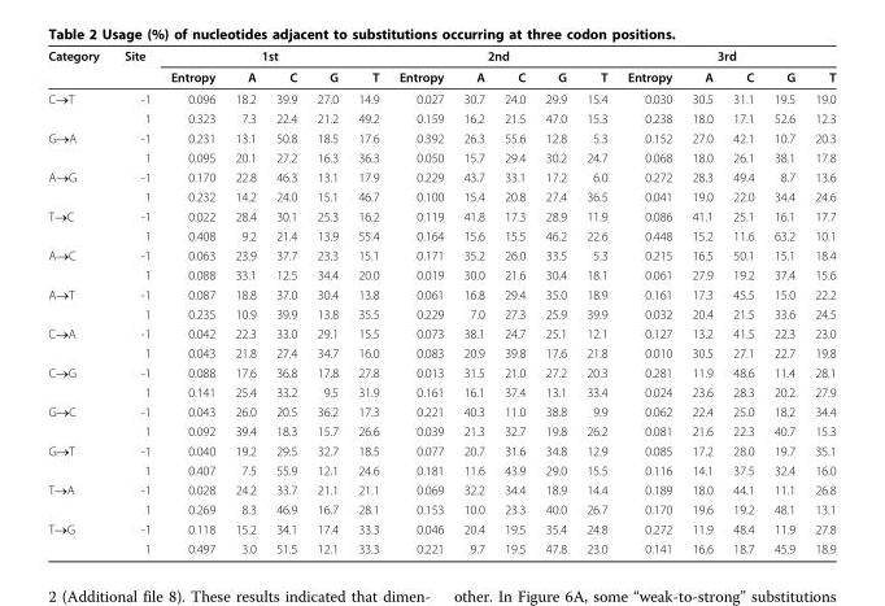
<table><thead><tr><td rowspan="2">Category</td><td rowspan="2">Site</td><td colspan="5">1st</td><td colspan="5">2nd</td><td colspan="5">3rd</td></tr><tr><td>Entropy</td><td>A</td><td>C</td><td>G</td><td>T</td><td>Entropy</td><td>A</td><td>C</td><td>G</td><td>T</td><td>Entropy</td><td>A</td><td>C</td><td>G</td><td>T</td></tr></thead><tbody><tr><td rowspan="2">C→T</td><td>-1</td><td>0.096</td><td>18.2</td><td>39.9</td><td>27.0</td><td>14.9</td><td>0.027</td><td>30.7</td><td>24.0</td><td>29.9</td><td>15.4</td><td>0.030</td><td>30.5</td><td>31.1</td><td>19.5</td><td>19.0</td></tr><tr><td>1</td><td>0.323</td><td>7.3</td><td>22.4</td><td>21.2</td><td>49.2</td><td>0.159</td><td>16.2</td><td>21.5</td><td>47.0</td><td>15.3</td><td>0.238</td><td>18.0</td><td>17.1</td><td>52.6</td><td>12.3</td></tr><tr><td rowspan="2">G→A</td><td>-1</td><td>0.231</td><td>13.1</td><td>50.8</td><td>18.5</td><td>17.6</td><td>0.392</td><td>26.3</td><td>55.6</td><td>12.8</td><td>5.3</td><td>0.152</td><td>27.0</td><td>42.1</td><td>10.7</td><td>20.3</td></tr><tr><td>1</td><td>0.095</td><td>20.1</td><td>27.2</td><td>16.3</td><td>36.3</td><td>0.050</td><td>15.7</td><td>29.4</td><td>30.2</td><td>24.7</td><td>0.068</td><td>18.0</td><td>26.1</td><td>38.1</td><td>17.8</td></tr><tr><td rowspan="2">A→G</td><td>-1</td><td>0.170</td><td>22.8</td><td>46.3</td><td>13.1</td><td>17.9</td><td>0.229</td><td>43.7</td><td>33.1</td><td>17.2</td><td>6.0</td><td>0.272</td><td>28.3</td><td>49.4</td><td>8.7</td><td>13.6</td></tr><tr><td>1</td><td>0.232</td><td>14.2</td><td>24.0</td><td>15.1</td><td>46.7</td><td>0.100</td><td>15.4</td><td>20.8</td><td>27.4</td><td>36.5</td><td>0.041</td><td>19.0</td><td>22.0</td><td>34.4</td><td>24.6</td></tr><tr><td rowspan="2">T→C</td><td>-1</td><td>0.022</td><td>28.4</td><td>30.1</td><td>25.3</td><td>16.2</td><td>0.119</td><td>41.8</td><td>17.3</td><td>28.9</td><td>11.9</td><td>0.086</td><td>41.1</td><td>25.1</td><td>16.1</td><td>17.7</td></tr><tr><td>1</td><td>0.408</td><td>9.2</td><td>21.4</td><td>13.9</td><td>55.4</td><td>0.164</td><td>15.6</td><td>15.5</td><td>46.2</td><td>22.6</td><td>0.448</td><td>15.2</td><td>11.6</td><td>63.2</td><td>10.1</td></tr><tr><td rowspan="2">A→C</td><td>-1</td><td>0.063</td><td>23.9</td><td>37.7</td><td>23.3</td><td>15.1</td><td>0.171</td><td>35.2</td><td>26.0</td><td>33.5</td><td>5.3</td><td>0.215</td><td>16.5</td><td>50.1</td><td>15.1</td><td>18.4</td></tr><tr><td>1</td><td>0.088</td><td>33.1</td><td>12.5</td><td>34.4</td><td>20.0</td><td>0.019</td><td>30.0</td><td>21.6</td><td>30.4</td><td>18.1</td><td>0.061</td><td>27.9</td><td>19.2</td><td>37.4</td><td>15.6</td></tr><tr><td rowspan="2">A→T</td><td>-1</td><td>0.087</td><td>18.8</td><td>37.0</td><td>30.4</td><td>13.8</td><td>0.061</td><td>16.8</td><td>29.4</td><td>35.0</td><td>18.9</td><td>0.161</td><td>17.3</td><td>45.5</td><td>15.0</td><td>22.2</td></tr><tr><td>1</td><td>0.235</td><td>10.9</td><td>39.9</td><td>13.8</td><td>35.5</td><td>0.229</td><td>7.0</td><td>27.3</td><td>25.9</td><td>39.9</td><td>0.032</td><td>20.4</td><td>21.5</td><td>33.6</td><td>24.5</td></tr><tr><td rowspan="2">C→A</td><td>-1</td><td>0.042</td><td>22.3</td><td>33.0</td><td>29.1</td><td>15.5</td><td>0.073</td><td>38.1</td><td>24.7</td><td>25.1</td><td>12.1</td><td>0.127</td><td>13.2</td><td>41.5</td><td>22.3</td><td>23.0</td></tr><tr><td>1</td><td>0.043</td><td>21.8</td><td>27.4</td><td>34.7</td><td>16.0</td><td>0.083</td><td>20.9</td><td>39.8</td><td>17.6</td><td>21.8</td><td>0.010</td><td>30.5</td><td>27.1</td><td>22.7</td><td>19.8</td></tr><tr><td rowspan="2">C→G</td><td>-1</td><td>0.088</td><td>17.6</td><td>36.8</td><td>17.8</td><td>27.8</td><td>0.013</td><td>31.5</td><td>21.0</td><td>27.2</td><td>20.3</td><td>0.281</td><td>11.9</td><td>48.6</td><td>11.4</td><td>28.1</td></tr><tr><td>1</td><td>0.141</td><td>25.4</td><td>33.2</td><td>9.5</td><td>31.9</td><td>0.161</td><td>16.1</td><td>37.4</td><td>13.1</td><td>33.4</td><td>0.024</td><td>23.6</td><td>28.3</td><td>20.2</td><td>27.9</td></tr><tr><td rowspan="2">G→C</td><td>-1</td><td>0.043</td><td>26.0</td><td>20.5</td><td>36.2</td><td>17.3</td><td>0.221</td><td>40.3</td><td>11.0</td><td>38.8</td><td>9.9</td><td>0.062</td><td>22.4</td><td>25.0</td><td>18.2</td><td>34.4</td></tr><tr><td>1</td><td>0.092</td><td>39.4</td><td>18.3</td><td>15.7</td><td>26.6</td><td>0.039</td><td>21.3</td><td>32.7</td><td>19.8</td><td>26.2</td><td>0.081</td><td>21.6</td><td>22.3</td><td>40.7</td><td>15.3</td></tr><tr><td rowspan="2">G→T</td><td>-1</td><td>0.040</td><td>19.2</td><td>29.5</td><td>32.7</td><td>18.5</td><td>0.077</td><td>20.7</td><td>31.6</td><td>34.8</td><td>12.9</td><td>0.085</td><td>17.2</td><td>28.0</td><td>19.7</td><td>35.1</td></tr><tr><td>1</td><td>0.407</td><td>7.5</td><td>55.9</td><td>12.1</td><td>24.6</td><td>0.181</td><td>11.6</td><td>43.9</td><td>29.0</td><td>15.5</td><td>0.116</td><td>14.1</td><td>37.5</td><td>32.4</td><td>16.0</td></tr><tr><td rowspan="2">T→A</td><td>-1</td><td>0.028</td><td>24.2</td><td>33.7</td><td>21.1</td><td>21.1</td><td>0.069</td><td>32.2</td><td>34.4</td><td>18.9</td><td>14.4</td><td>0.189</td><td>18.0</td><td>44.1</td><td>11.1</td><td>26.8</td></tr><tr><td>1</td><td>0.269</td><td>8.3</td><td>46.9</td><td>16.7</td><td>28.1</td><td>0.153</td><td>10.0</td><td>23.3</td><td>40.0</td><td>26.7</td><td>0.170</td><td>19.6</td><td>19.2</td><td>48.1</td><td>13.1</td></tr><tr><td rowspan="2">T→G</td><td>-1</td><td>0.118</td><td>15.2</td><td>34.1</td><td>17.4</td><td>33.3</td><td>0.046</td><td>20.4</td><td>19.5</td><td>35.4</td><td>24.8</td><td>0.272</td><td>11.9</td><td>48.4</td><td>11.9</td><td>27.8</td></tr><tr><td>1</td><td>0.497</td><td>3.0</td><td>51.5</td><td>12.1</td><td>33.3</td><td>0.221</td><td>9.7</td><td>19.5</td><td>47.8</td><td>23.0</td><td>0.141</td><td>16.6</td><td>18.7</td><td>45.9</td><td>18.9</td></tr></tbody></table>